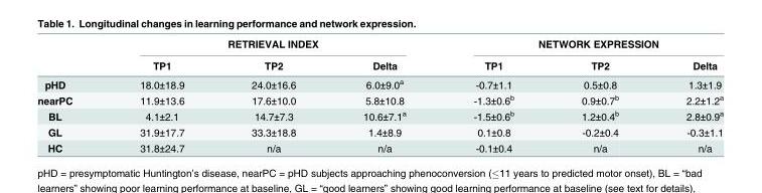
<table><thead><tr><td rowspan="2"></td><td colspan="3">RETRIEVAL INDEX</td><td colspan="3">NETWORK EXPRESSION</td></tr><tr><td>TP1</td><td>TP2</td><td>Delta</td><td>TP1</td><td>TP2</td><td>Delta</td></tr></thead><tbody><tr><td>pHD</td><td>18.0±18.9</td><td>24.0±16.6</td><td>6.0±9.0<sup>a</sup></td><td>-0.7±1.1</td><td>0.5±0.8</td><td>1.3±1.9</td></tr><tr><td>nearPC</td><td>11.9±13.6</td><td>17.6±10.0</td><td>5.8±10.8</td><td>-1.3±0.6<sup>b</sup></td><td>0.9±0.7<sup>b</sup></td><td>2.2±1.2<sup>a</sup></td></tr><tr><td>BL</td><td>4.1±2.1</td><td>14.7±7.3</td><td>10.6±7.1<sup>a</sup></td><td>-1.5±0.6<sup>b</sup></td><td>1.2±0.4<sup>b</sup></td><td>2.8±0.9<sup>a</sup></td></tr><tr><td>GL</td><td>31.9±17.7</td><td>33.3±18.8</td><td>1.4±8.9</td><td>0.1±0.8</td><td>-0.2±0.4</td><td>-0.3±1.1</td></tr><tr><td>HC</td><td>31.8±24.7</td><td>n/a</td><td>n/a</td><td>-0.1±0.4</td><td>n/a</td><td>n/a</td></tr></tbody></table>